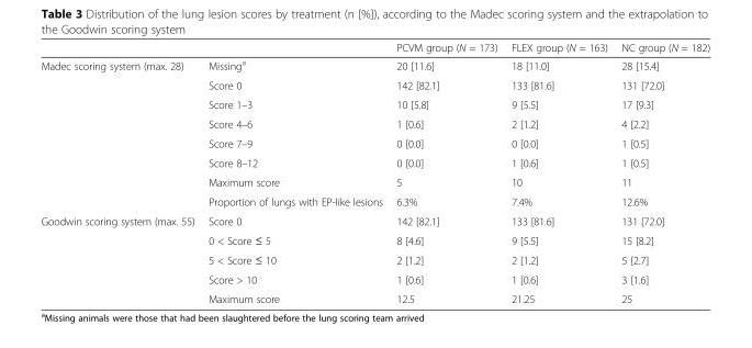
<table><thead><tr><td></td><td></td><td>PCVM group (N = 173)</td><td>FLEX group (N = 163)</td><td>NC group (N = 182)</td></tr></thead><tbody><tr><td rowspan="8">Madec scoring system (max. 28)</td><td>Missing<sup>a</sup></td><td>20 [11.6]</td><td>18 [11.0]</td><td>28 [15.4]</td></tr><tr><td>Score 0</td><td>142 [82.1]</td><td>133 [81.6]</td><td>131 [72.0]</td></tr><tr><td>Score 1–3</td><td>10 [5.8]</td><td>9 [5.5]</td><td>17 [9.3]</td></tr><tr><td>Score 4–6</td><td>1 [0.6]</td><td>2 [1.2]</td><td>4 [2.2]</td></tr><tr><td>Score 7–9</td><td>0 [0.0]</td><td>0 [0.0]</td><td>1 [0.5]</td></tr><tr><td>Score 8–12</td><td>0 [0.0]</td><td>1 [0.6]</td><td>1 [0.5]</td></tr><tr><td>Maximum score</td><td>5</td><td>10</td><td>11</td></tr><tr><td>Proportion of lungs with EP-like lesions</td><td>6.3%</td><td>7.4%</td><td>12.6%</td></tr><tr><td rowspan="5">Goodwin scoring system (max. 55)</td><td>Score 0</td><td>142 [82.1]</td><td>133 [81.6]</td><td>131 [72.0]</td></tr><tr><td>0 &lt; Score ≤ 5</td><td>8 [4.6]</td><td>9 [5.5]</td><td>15 [8.2]</td></tr><tr><td>5 &lt; Score ≤ 10</td><td>2 [1.2]</td><td>2 [1.2]</td><td>5 [2.7]</td></tr><tr><td>Score &gt; 10</td><td>1 [0.6]</td><td>1 [0.6]</td><td>3 [1.6]</td></tr><tr><td>Maximum score</td><td>12.5</td><td>21.25</td><td>25</td></tr></tbody></table>